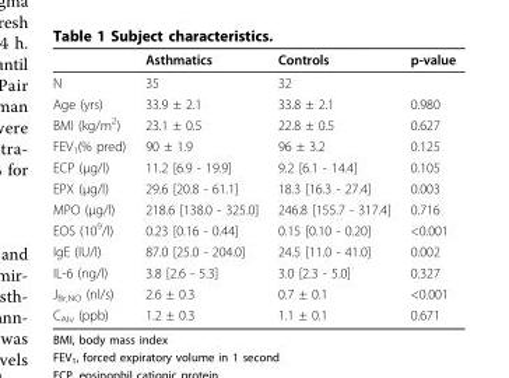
<table><thead><tr><td></td><td>Asthmatics</td><td>Controls</td><td>p-value</td></tr></thead><tbody><tr><td>N</td><td>35</td><td>32</td><td></td></tr><tr><td>Age (yrs)</td><td>33.9 ± 2.1</td><td>33.8 ± 2.1</td><td>0.980</td></tr><tr><td>BMI (kg/m<sup>2</sup>)</td><td>23.1 ± 0.5</td><td>22.8 ± 0.5</td><td>0.627</td></tr><tr><td>FEV<sub>1</sub>(% pred)</td><td>90 ± 1.9</td><td>96 ± 3.2</td><td>0.125</td></tr><tr><td>ECP (μg/l)</td><td>11.2 [6.9 - 19.9]</td><td>9.2 [6.1 - 14.4]</td><td>0.105</td></tr><tr><td>EPX (μg/l)</td><td>29.6 [20.8 - 61.1]</td><td>18.3 [16.3 - 27.4]</td><td>0.003</td></tr><tr><td>MPO (μg/l)</td><td>218.6 [138.0 - 325.0]</td><td>246.8 [155.7 - 317.4]</td><td>0.716</td></tr><tr><td>EOS (10<sup>9</sup>/l)</td><td>0.23 [0.16 - 0.44]</td><td>0.15 [0.10 - 0.20]</td><td>&lt;0.001</td></tr><tr><td>IgE (IU/l)</td><td>87.0 [25.0 - 204.0]</td><td>24.5 [11.0 - 41.0]</td><td>0.002</td></tr><tr><td>IL-6 (ng/l)</td><td>3.8 [2.6 - 5.3]</td><td>3.0 [2.3 - 5.0]</td><td>0.327</td></tr><tr><td>J<sub>Br,NO</sub> (nl/s)</td><td>2.6 ± 0.3</td><td>0.7 ± 0.1</td><td>&lt;0.001</td></tr><tr><td>C<sub>Alv</sub> (ppb)</td><td>1.2 ± 0.3</td><td>1.1 ± 0.1</td><td>0.671</td></tr></tbody></table>